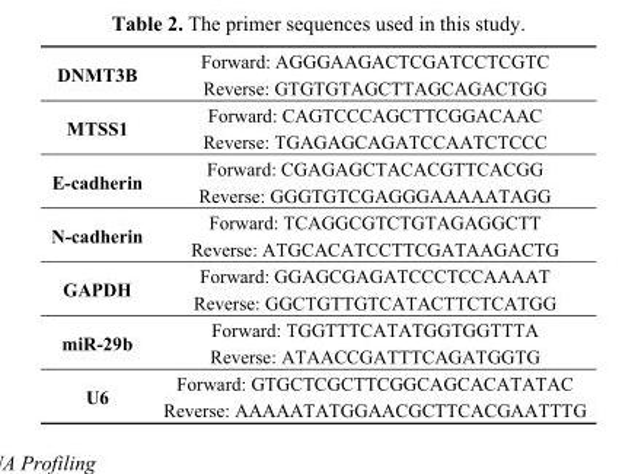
<table><tbody><tr><td rowspan="2">DNMT3B</td><td>Forward: AGGGAAGACTCGATCCTCGTC</td></tr><tr><td>Reverse: GTGTGTAGCTTAGCAGACTGG</td></tr><tr><td rowspan="2">MTSS1</td><td>Forward: CAGTCCCAGCTTCGGACAAC</td></tr><tr><td>Reverse: TGAGAGCAGATCCAATCTCCC</td></tr><tr><td rowspan="2">E-cadherin</td><td>Forward: CGAGAGCTACACGTTCACGG</td></tr><tr><td>Reverse: GGGTGTCGAGGGAAAAATAGG</td></tr><tr><td rowspan="2">N-cadherin</td><td>Forward: TCAGGCGTCTGTAGAGGCTT</td></tr><tr><td>Reverse: ATGCACATCCTTCGATAAGACTG</td></tr><tr><td rowspan="2">GAPDH</td><td>Forward: GGAGCGAGATCCCTCCAAAAT</td></tr><tr><td>Reverse: GGCTGTTGTCATACTTCTCATGG</td></tr><tr><td rowspan="2">miR-29b</td><td>Forward: TGGTTTCATATGGTGGTTTA</td></tr><tr><td>Reverse: ATAACCGATTTCAGATGGTG</td></tr><tr><td rowspan="2">U6</td><td>Forward: GTGCTCGCTTCGGCAGCACATATAC</td></tr><tr><td>Reverse: AAAAATATGGAACGCTTCACGAATTTG</td></tr></tbody></table>